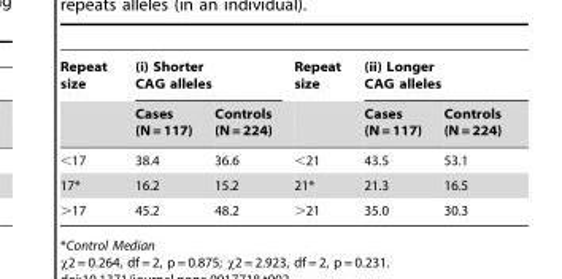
<table><thead><tr><td rowspan="2">Repeat size</td><td colspan="2">(i) Shorter CAG alleles</td><td rowspan="2">Repeat size</td><td colspan="2">(ii) Longer CAG alleles</td></tr><tr><td>Cases (N = 117)</td><td>Controls (N = 224)</td><td>Cases (N = 117)</td><td>Controls (N = 224)</td></tr></thead><tbody><tr><td>&lt;17</td><td>38.4</td><td>36.6</td><td>&lt;21</td><td>43.5</td><td>53.1</td></tr><tr><td>17*</td><td>16.2</td><td>15.2</td><td>21*</td><td>21.3</td><td>16.5</td></tr><tr><td>&gt;17</td><td>45.2</td><td>48.2</td><td>&gt;21</td><td>35.0</td><td>30.3</td></tr></tbody></table>